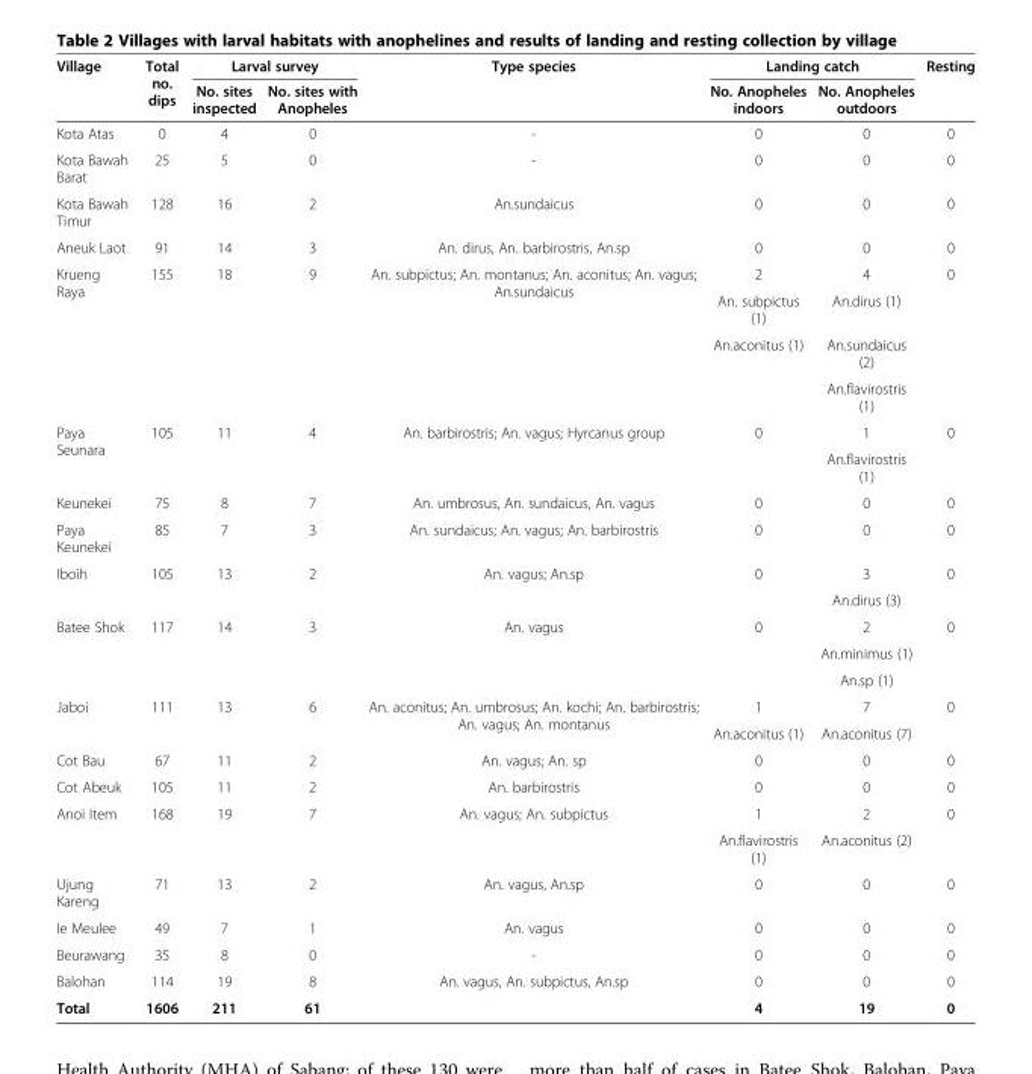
<table><thead><tr><td rowspan="2">Village</td><td rowspan="2">Total no. dips</td><td colspan="2">Larval survey</td><td rowspan="2">Type species</td><td colspan="2">Landing catch</td><td rowspan="2">Resting</td></tr><tr><td>No. sites inspected</td><td>No. sites with Anopheles</td><td>No. Anopheles indoors</td><td>No. Anopheles outdoors</td></tr></thead><tbody><tr><td>Kota Atas</td><td>0</td><td>4</td><td>0</td><td>-</td><td>0</td><td>0</td><td>0</td></tr><tr><td>Kota Bawah Barat</td><td>25</td><td>5</td><td>0</td><td>-</td><td>0</td><td>0</td><td>0</td></tr><tr><td>Kota Bawah Timur</td><td>128</td><td>16</td><td>2</td><td>An.sundaicus</td><td>0</td><td>0</td><td>0</td></tr><tr><td>Aneuk Laot</td><td>91</td><td>14</td><td>3</td><td>An. dirus, An. barbirostris, An.sp</td><td>0</td><td>0</td><td>0</td></tr><tr><td rowspan="4">Krueng Raya</td><td rowspan="4">155</td><td rowspan="4">18</td><td rowspan="4">9</td><td rowspan="4">An. subpictus; An. montanus; An. aconitus; An. vagus; An.sundaicus</td><td>2</td><td>4</td><td rowspan="4">0</td></tr><tr><td>An. subpictus (1)</td><td>An.dirus (1)</td></tr><tr><td rowspan="2">An.aconitus (1)</td><td>An.sundaicus (2)</td></tr><tr><td>An.flavirostris (1)</td></tr><tr><td rowspan="2">Paya Seunara</td><td rowspan="2">105</td><td rowspan="2">11</td><td rowspan="2">4</td><td rowspan="2">An. barbirostris; An. vagus; Hyrcanus group</td><td rowspan="2">0</td><td>1</td><td rowspan="2">0</td></tr><tr><td>An.flavirostris (1)</td></tr><tr><td>Keunekei</td><td>75</td><td>8</td><td>7</td><td>An. umbrosus, An. sundaicus, An. vagus</td><td>0</td><td>0</td><td>0</td></tr><tr><td>Paya Keunekei</td><td>85</td><td>7</td><td>3</td><td>An. sundaicus; An. vagus; An. barbirostris</td><td>0</td><td>0</td><td>0</td></tr><tr><td rowspan="2">Iboih</td><td rowspan="2">105</td><td rowspan="2">13</td><td rowspan="2">2</td><td rowspan="2">An. vagus; An.sp</td><td rowspan="2">0</td><td>3</td><td rowspan="2">0</td></tr><tr><td>An.dirus (3)</td></tr><tr><td rowspan="3">Batee Shok</td><td rowspan="3">117</td><td rowspan="3">14</td><td rowspan="3">3</td><td rowspan="3">An. vagus</td><td rowspan="3">0</td><td>2</td><td rowspan="3">0</td></tr><tr><td>An.minimus (1)</td></tr><tr><td>An.sp (1)</td></tr><tr><td rowspan="2">Jaboi</td><td rowspan="2">111</td><td rowspan="2">13</td><td rowspan="2">6</td><td rowspan="2">An. aconitus; An. umbrosus; An. kochi; An. barbirostris; An. vagus; An. montanus</td><td>1</td><td>7</td><td rowspan="2">0</td></tr><tr><td>An.aconitus (1)</td><td>An.aconitus (7)</td></tr><tr><td>Cot Bau</td><td>67</td><td>11</td><td>2</td><td>An. vagus; An. sp</td><td>0</td><td>0</td><td>0</td></tr><tr><td>Cot Abeuk</td><td>105</td><td>11</td><td>2</td><td>An. barbirostris</td><td>0</td><td>0</td><td>0</td></tr><tr><td rowspan="2">Anoi Item</td><td rowspan="2">168</td><td rowspan="2">19</td><td rowspan="2">7</td><td rowspan="2">An. vagus; An. subpictus</td><td>1</td><td>2</td><td rowspan="2">0</td></tr><tr><td>An.flavirostris (1)</td><td>An.aconitus (2)</td></tr><tr><td>Ujung Kareng</td><td>71</td><td>13</td><td>2</td><td>An. vagus, An.sp</td><td>0</td><td>0</td><td>0</td></tr><tr><td>Ie Meulee</td><td>49</td><td>7</td><td>1</td><td>An. vagus</td><td>0</td><td>0</td><td>0</td></tr><tr><td>Beurawang</td><td>35</td><td>8</td><td>0</td><td>-</td><td>0</td><td>0</td><td>0</td></tr><tr><td>Balohan</td><td>114</td><td>19</td><td>8</td><td>An. vagus, An. subpictus, An.sp</td><td>0</td><td>0</td><td>0</td></tr><tr><td>Total</td><td>1606</td><td>211</td><td>61</td><td></td><td>4</td><td>19</td><td>0</td></tr></tbody></table>